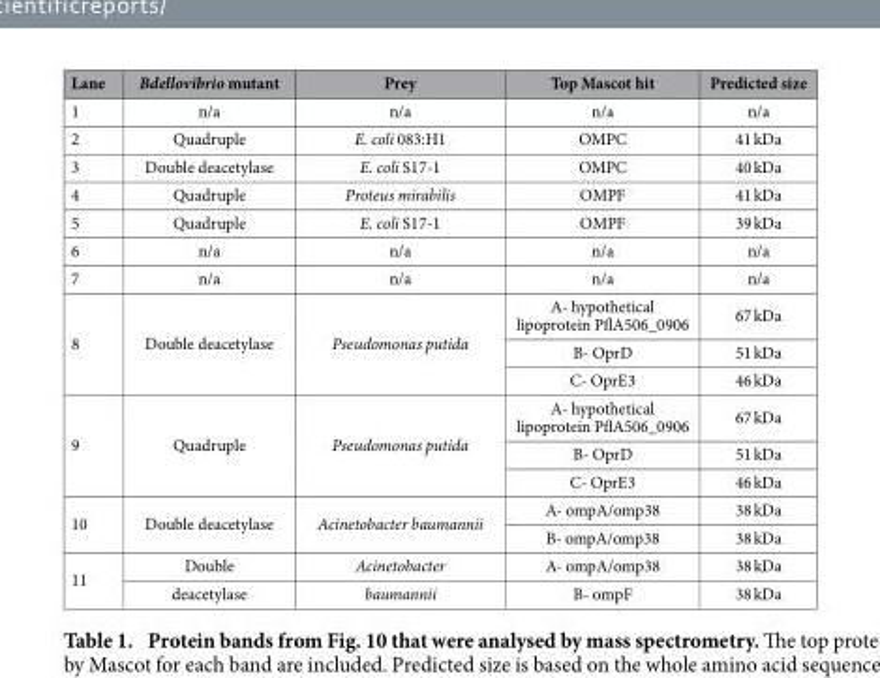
<table><thead><tr><td>Lane</td><td>Bdellovibrio mutant</td><td>Prey</td><td>Top Mascot hit</td><td>Predicted size</td></tr></thead><tbody><tr><td>1</td><td>n/a</td><td>n/a</td><td>n/a</td><td>n/a</td></tr><tr><td>2</td><td>Quadruple</td><td>E. coli 083:H1</td><td>OMPC</td><td>41 kDa</td></tr><tr><td>3</td><td>Double deacetylase</td><td>E. coli S17-1</td><td>OMPC</td><td>40 kDa</td></tr><tr><td>4</td><td>Quadruple</td><td>Proteus mirabilis</td><td>OMPF</td><td>41 kDa</td></tr><tr><td>5</td><td>Quadruple</td><td>E. coli S17-1</td><td>OMPF</td><td>39 kDa</td></tr><tr><td>6</td><td>n/a</td><td>n/a</td><td>n/a</td><td>n/a</td></tr><tr><td>7</td><td>n/a</td><td>n/a</td><td>n/a</td><td>n/a</td></tr><tr><td rowspan="3">8</td><td rowspan="3">Double deacetylase</td><td rowspan="3">Pseudomonas putida</td><td>A- hypothetical lipoprotein PflA506_0906</td><td>67 kDa</td></tr><tr><td>B- OprD</td><td>51 kDa</td></tr><tr><td>C- OprE3</td><td>46 kDa</td></tr><tr><td rowspan="3">9</td><td rowspan="3">Quadruple</td><td rowspan="3">Pseudomonas putida</td><td>A- hypothetical lipoprotein PflA506_0906</td><td>67 kDa</td></tr><tr><td>B- OprD</td><td>51 kDa</td></tr><tr><td>C- OprE3</td><td>46 kDa</td></tr><tr><td rowspan="2">10</td><td rowspan="2">Double deacetylase</td><td rowspan="2">Acinetobacter baumannii</td><td>A- ompA/omp38</td><td>38 kDa</td></tr><tr><td>B- ompA/omp38</td><td>38 kDa</td></tr><tr><td rowspan="2">11</td><td>Double</td><td>Acinetobacter</td><td>A- ompA/omp38</td><td>38 kDa</td></tr><tr><td>deacetylase</td><td>baumannii</td><td>B- ompF</td><td>38 kDa</td></tr></tbody></table>